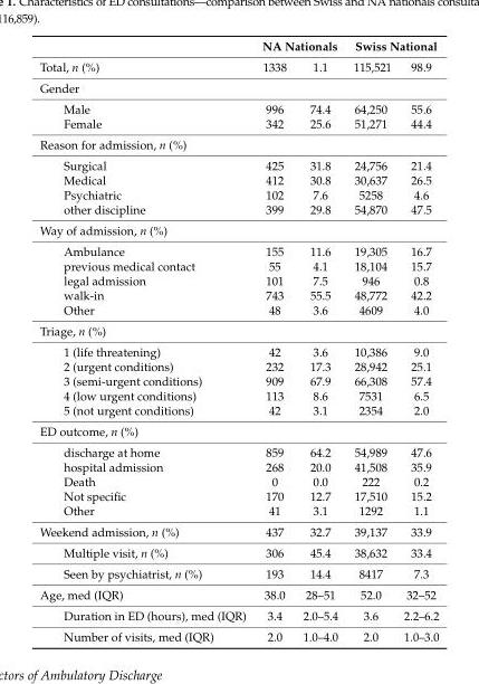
<table><thead><tr><td rowspan="2">Total, n (%)</td><td colspan="2">NA Nationals</td><td colspan="2">Swiss National</td></tr><tr><td>1338</td><td>1.1</td><td>115,521</td><td>98.9</td></tr></thead><tbody><tr><td colspan="5">Gender</td></tr><tr><td>Male</td><td>996</td><td>74.4</td><td>64,250</td><td>55.6</td></tr><tr><td>Female</td><td>342</td><td>25.6</td><td>51,271</td><td>44.4</td></tr><tr><td colspan="5">Reason for admission, n (%)</td></tr><tr><td>Surgical</td><td>425</td><td>31.8</td><td>24,756</td><td>21.4</td></tr><tr><td>Medical</td><td>412</td><td>30.8</td><td>30,637</td><td>26.5</td></tr><tr><td>Psychiatric</td><td>102</td><td>7.6</td><td>5258</td><td>4.6</td></tr><tr><td>other discipline</td><td>399</td><td>29.8</td><td>54,870</td><td>47.5</td></tr><tr><td colspan="5">Way of admission, n (%)</td></tr><tr><td>Ambulance</td><td>155</td><td>11.6</td><td>19,305</td><td>16.7</td></tr><tr><td>previous medical contact</td><td>55</td><td>4.1</td><td>18,104</td><td>15.7</td></tr><tr><td>legal admission</td><td>101</td><td>7.5</td><td>946</td><td>0.8</td></tr><tr><td>walk-in</td><td>743</td><td>55.5</td><td>48,772</td><td>42.2</td></tr><tr><td>Other</td><td>48</td><td>3.6</td><td>4609</td><td>4.0</td></tr><tr><td colspan="5">Triage, n (%)</td></tr><tr><td>1 (life threatening)</td><td>42</td><td>3.6</td><td>10,386</td><td>9.0</td></tr><tr><td>2 (urgent conditions)</td><td>232</td><td>17.3</td><td>28,942</td><td>25.1</td></tr><tr><td>3 (semi-urgent conditions)</td><td>909</td><td>67.9</td><td>66,308</td><td>57.4</td></tr><tr><td>4 (low urgent conditions)</td><td>113</td><td>8.6</td><td>7531</td><td>6.5</td></tr><tr><td>5 (not urgent conditions)</td><td>42</td><td>3.1</td><td>2354</td><td>2.0</td></tr><tr><td colspan="5">ED outcome, n (%)</td></tr><tr><td>discharge at home</td><td>859</td><td>64.2</td><td>54,989</td><td>47.6</td></tr><tr><td>hospital admission</td><td>268</td><td>20.0</td><td>41,508</td><td>35.9</td></tr><tr><td>Death</td><td>0</td><td>0.0</td><td>222</td><td>0.2</td></tr><tr><td>Not specific</td><td>170</td><td>12.7</td><td>17,510</td><td>15.2</td></tr><tr><td>Other</td><td>41</td><td>3.1</td><td>1292</td><td>1.1</td></tr><tr><td>Weekend admission, n (%)</td><td>437</td><td>32.7</td><td>39,137</td><td>33.9</td></tr><tr><td>Multiple visit, n (%)</td><td>306</td><td>45.4</td><td>38,632</td><td>33.4</td></tr><tr><td>Seen by psychiatrist, n (%)</td><td>193</td><td>14.4</td><td>8417</td><td>7.3</td></tr><tr><td>Age, med (IQR)</td><td>38.0</td><td>28–51</td><td>52.0</td><td>32–52</td></tr><tr><td>Duration in ED (hours), med (IQR)</td><td>3.4</td><td>2.0–5.4</td><td>3.6</td><td>2.2–6.2</td></tr><tr><td>Number of visits, med (IQR)</td><td>2.0</td><td>1.0–4.0</td><td>2.0</td><td>1.0–3.0</td></tr></tbody></table>